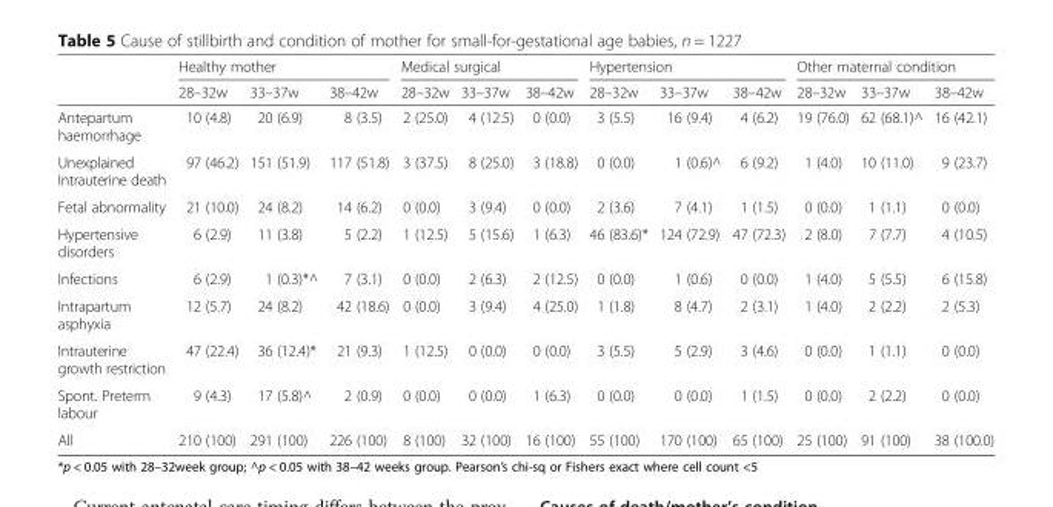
<table><thead><tr><td rowspan="2"></td><td colspan="3">Healthy mother</td><td colspan="3">Medical surgical</td><td colspan="3">Hypertension</td><td colspan="3">Other maternal condition</td></tr><tr><td>28–32w</td><td>33–37w</td><td>38–42w</td><td>28–32w</td><td>33–37w</td><td>38–42w</td><td>28–32w</td><td>33–37w</td><td>38–42w</td><td>28–32w</td><td>33–37w</td><td>38–42w</td></tr></thead><tbody><tr><td>Antepartum haemorrhage</td><td>10 (4.8)</td><td>20 (6.9)</td><td>8 (3.5)</td><td>2 (25.0)</td><td>4 (12.5)</td><td>0 (0.0)</td><td>3 (5.5)</td><td>16 (9.4)</td><td>4 (6.2)</td><td>19 (76.0)</td><td>62 (68.1)^</td><td>16 (42.1)</td></tr><tr><td>Unexplained Intrauterine death</td><td>97 (46.2)</td><td>151 (51.9)</td><td>117 (51.8)</td><td>3 (37.5)</td><td>8 (25.0)</td><td>3 (18.8)</td><td>0 (0.0)</td><td>1 (0.6)^</td><td>6 (9.2)</td><td>1 (4.0)</td><td>10 (11.0)</td><td>9 (23.7)</td></tr><tr><td>Fetal abnormality</td><td>21 (10.0)</td><td>24 (8.2)</td><td>14 (6.2)</td><td>0 (0.0)</td><td>3 (9.4)</td><td>0 (0.0)</td><td>2 (3.6)</td><td>7 (4.1)</td><td>1 (1.5)</td><td>0 (0.0)</td><td>1 (1.1)</td><td>0 (0.0)</td></tr><tr><td>Hypertensive disorders</td><td>6 (2.9)</td><td>11 (3.8)</td><td>5 (2.2)</td><td>1 (12.5)</td><td>5 (15.6)</td><td>1 (6.3)</td><td>46 (83.6)*</td><td>124 (72.9)</td><td>47 (72.3)</td><td>2 (8.0)</td><td>7 (7.7)</td><td>4 (10.5)</td></tr><tr><td>Infections</td><td>6 (2.9)</td><td>1 (0.3)*^</td><td>7 (3.1)</td><td>0 (0.0)</td><td>2 (6.3)</td><td>2 (12.5)</td><td>0 (0.0)</td><td>1 (0.6)</td><td>0 (0.0)</td><td>1 (4.0)</td><td>5 (5.5)</td><td>6 (15.8)</td></tr><tr><td>Intrapartum asphyxia</td><td>12 (5.7)</td><td>24 (8.2)</td><td>42 (18.6)</td><td>0 (0.0)</td><td>3 (9.4)</td><td>4 (25.0)</td><td>1 (1.8)</td><td>8 (4.7)</td><td>2 (3.1)</td><td>1 (4.0)</td><td>2 (2.2)</td><td>2 (5.3)</td></tr><tr><td>Intrauterine growth restriction</td><td>47 (22.4)</td><td>36 (12.4)*</td><td>21 (9.3)</td><td>1 (12.5)</td><td>0 (0.0)</td><td>0 (0.0)</td><td>3 (5.5)</td><td>5 (2.9)</td><td>3 (4.6)</td><td>0 (0.0)</td><td>1 (1.1)</td><td>0 (0.0)</td></tr><tr><td>Spont. Preterm labour</td><td>9 (4.3)</td><td>17 (5.8)^</td><td>2 (0.9)</td><td>0 (0.0)</td><td>0 (0.0)</td><td>1 (6.3)</td><td>0 (0.0)</td><td>0 (0.0)</td><td>1 (1.5)</td><td>0 (0.0)</td><td>2 (2.2)</td><td>0 (0.0)</td></tr><tr><td>All</td><td>210 (100)</td><td>291 (100)</td><td>226 (100)</td><td>8 (100)</td><td>32 (100)</td><td>16 (100)</td><td>55 (100)</td><td>170 (100)</td><td>65 (100)</td><td>25 (100)</td><td>91 (100)</td><td>38 (100.0)</td></tr></tbody></table>